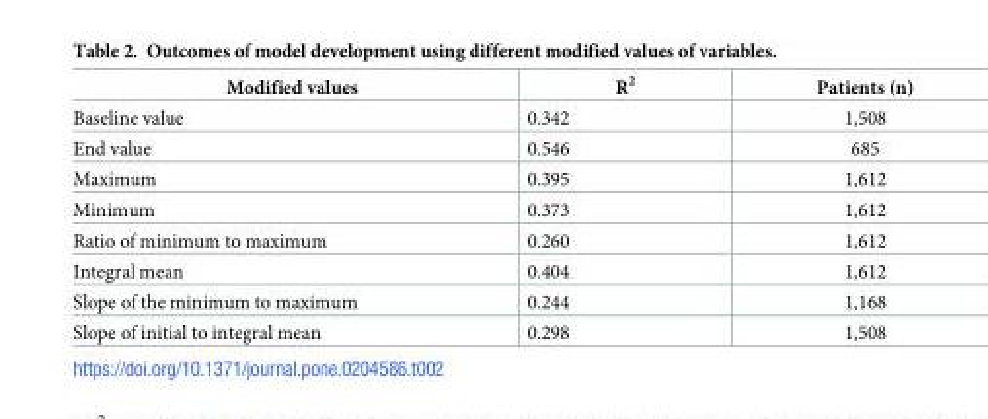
<table><thead><tr><td>Modified values</td><td>R<sup>2</sup></td><td>Patients (n)</td></tr></thead><tbody><tr><td>Baseline value</td><td>0.342</td><td>1,508</td></tr><tr><td>End value</td><td>0.546</td><td>685</td></tr><tr><td>Maximum</td><td>0.395</td><td>1,612</td></tr><tr><td>Minimum</td><td>0.373</td><td>1,612</td></tr><tr><td>Ratio of minimum to maximum</td><td>0.260</td><td>1,612</td></tr><tr><td>Integral mean</td><td>0.404</td><td>1,612</td></tr><tr><td>Slope of the minimum to maximum</td><td>0.244</td><td>1,168</td></tr><tr><td>Slope of initial to integral mean</td><td>0.298</td><td>1,508</td></tr></tbody></table>